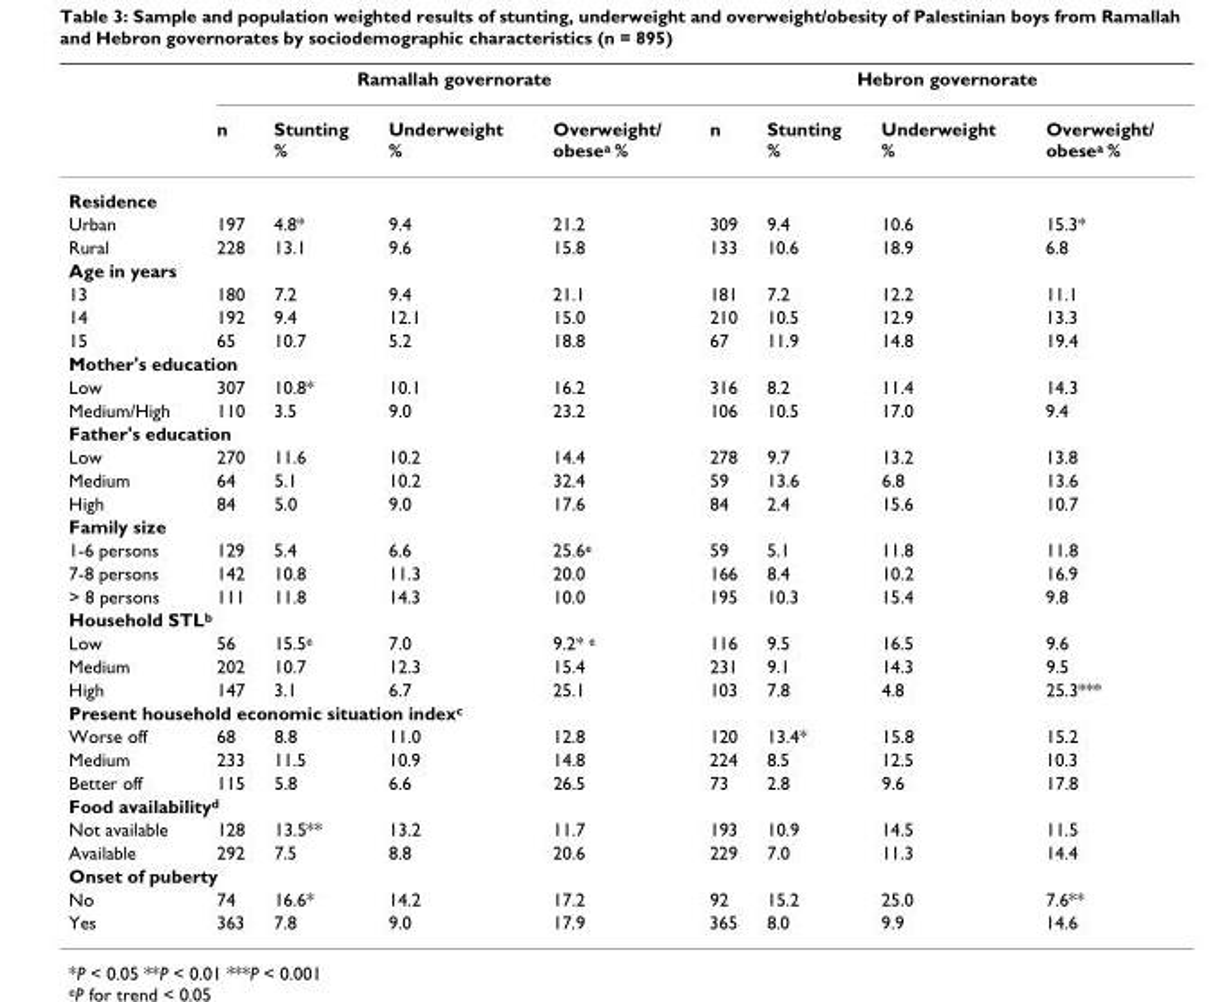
<table><thead><tr><td rowspan="2"></td><td colspan="4">Ramallah governorate</td><td colspan="4">Hebron governorate</td></tr><tr><td>n</td><td>Stunting %</td><td>Underweight %</td><td>Overweight/ obese<sup>a</sup> %</td><td>n</td><td>Stunting %</td><td>Underweight %</td><td>Overweight/ obese<sup>a</sup> %</td></tr></thead><tbody><tr><td colspan="9">Residence</td></tr><tr><td>Urban</td><td>197</td><td>4.8*</td><td>9.4</td><td>21.2</td><td>309</td><td>9.4</td><td>10.6</td><td>15.3*</td></tr><tr><td>Rural</td><td>228</td><td>13.1</td><td>9.6</td><td>15.8</td><td>133</td><td>10.6</td><td>18.9</td><td>6.8</td></tr><tr><td colspan="9">Age in years</td></tr><tr><td>13</td><td>180</td><td>7.2</td><td>9.4</td><td>21.1</td><td>181</td><td>7.2</td><td>12.2</td><td>11.1</td></tr><tr><td>14</td><td>192</td><td>9.4</td><td>12.1</td><td>15.0</td><td>210</td><td>10.5</td><td>12.9</td><td>13.3</td></tr><tr><td>15</td><td>65</td><td>10.7</td><td>5.2</td><td>18.8</td><td>67</td><td>11.9</td><td>14.8</td><td>19.4</td></tr><tr><td colspan="9">Mother&#x27;s education</td></tr><tr><td>Low</td><td>307</td><td>10.8*</td><td>10.1</td><td>16.2</td><td>316</td><td>8.2</td><td>11.4</td><td>14.3</td></tr><tr><td>Medium/High</td><td>110</td><td>3.5</td><td>9.0</td><td>23.2</td><td>106</td><td>10.5</td><td>17.0</td><td>9.4</td></tr><tr><td colspan="9">Father&#x27;s education</td></tr><tr><td>Low</td><td>270</td><td>11.6</td><td>10.2</td><td>14.4</td><td>278</td><td>9.7</td><td>13.2</td><td>13.8</td></tr><tr><td>Medium</td><td>64</td><td>5.1</td><td>10.2</td><td>32.4</td><td>59</td><td>13.6</td><td>6.8</td><td>13.6</td></tr><tr><td>High</td><td>84</td><td>5.0</td><td>9.0</td><td>17.6</td><td>84</td><td>2.4</td><td>15.6</td><td>10.7</td></tr><tr><td colspan="9">Family size</td></tr><tr><td>1-6 persons</td><td>129</td><td>5.4</td><td>6.6</td><td>25.6<sup>e</sup></td><td>59</td><td>5.1</td><td>11.8</td><td>11.8</td></tr><tr><td>7-8 persons</td><td>142</td><td>10.8</td><td>11.3</td><td>20.0</td><td>166</td><td>8.4</td><td>10.2</td><td>16.9</td></tr><tr><td>&gt; 8 persons</td><td>111</td><td>11.8</td><td>14.3</td><td>10.0</td><td>195</td><td>10.3</td><td>15.4</td><td>9.8</td></tr><tr><td colspan="9">Household STL<sup>b</sup></td></tr><tr><td>Low</td><td>56</td><td>15.5<sup>e</sup></td><td>7.0</td><td>9.2* <sup>e</sup></td><td>116</td><td>9.5</td><td>16.5</td><td>9.6</td></tr><tr><td>Medium</td><td>202</td><td>10.7</td><td>12.3</td><td>15.4</td><td>231</td><td>9.1</td><td>14.3</td><td>9.5</td></tr><tr><td>High</td><td>147</td><td>3.1</td><td>6.7</td><td>25.1</td><td>103</td><td>7.8</td><td>4.8</td><td>25.3***</td></tr><tr><td colspan="9">Present household economic situation index<sup>c</sup></td></tr><tr><td>Worse off</td><td>68</td><td>8.8</td><td>11.0</td><td>12.8</td><td>120</td><td>13.4*</td><td>15.8</td><td>15.2</td></tr><tr><td>Medium</td><td>233</td><td>11.5</td><td>10.9</td><td>14.8</td><td>224</td><td>8.5</td><td>12.5</td><td>10.3</td></tr><tr><td>Better off</td><td>115</td><td>5.8</td><td>6.6</td><td>26.5</td><td>73</td><td>2.8</td><td>9.6</td><td>17.8</td></tr><tr><td colspan="9">Food availability<sup>d</sup></td></tr><tr><td>Not available</td><td>128</td><td>13.5**</td><td>13.2</td><td>11.7</td><td>193</td><td>10.9</td><td>14.5</td><td>11.5</td></tr><tr><td>Available</td><td>292</td><td>7.5</td><td>8.8</td><td>20.6</td><td>229</td><td>7.0</td><td>11.3</td><td>14.4</td></tr><tr><td colspan="9">Onset of puberty</td></tr><tr><td>No</td><td>74</td><td>16.6*</td><td>14.2</td><td>17.2</td><td>92</td><td>15.2</td><td>25.0</td><td>7.6**</td></tr><tr><td>Yes</td><td>363</td><td>7.8</td><td>9.0</td><td>17.9</td><td>365</td><td>8.0</td><td>9.9</td><td>14.6</td></tr></tbody></table>